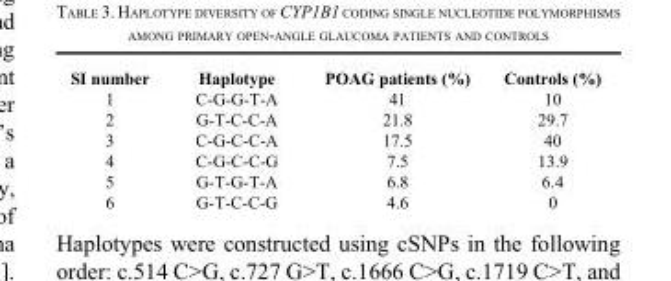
<table><tbody><tr><td>SI number</td><td>Haplotype</td><td>POAG patients (%)</td><td>Controls (%)</td></tr><tr><td>1</td><td>C-G-G-T-A</td><td>41</td><td>10</td></tr><tr><td>2</td><td>G-T-C-C-A</td><td>21.8</td><td>29.7</td></tr><tr><td>3</td><td>C-G-C-C-A</td><td>17.5</td><td>40</td></tr><tr><td>4</td><td>C-G-C-C-G</td><td>7.5</td><td>13.9</td></tr><tr><td>5</td><td>G-T-G-T-A</td><td>6.8</td><td>6.4</td></tr><tr><td>6</td><td>G-T-C-C-G</td><td>4.6</td><td>0</td></tr></tbody></table>